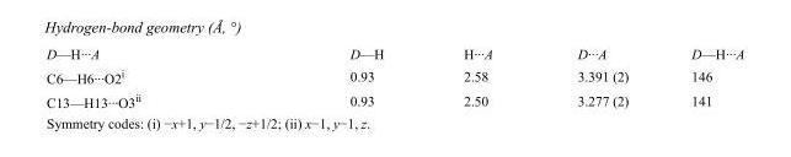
<table><tbody><tr><td>D—H···A</td><td>D—H</td><td>H···A</td><td>D···A</td><td>D—H···A</td></tr><tr><td>C6—H6···O2<sup>i</sup></td><td>0.93</td><td>2.58</td><td>3.391 (2)</td><td>146</td></tr><tr><td>C13—H13···O3<sup>ii</sup></td><td>0.93</td><td>2.50</td><td>3.277 (2)</td><td>141</td></tr></tbody></table>